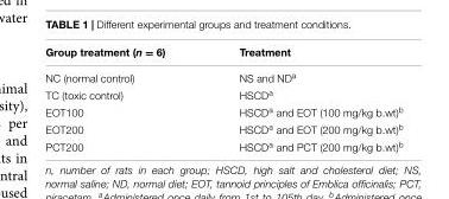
<table><thead><tr><td>Group treatment (n = 6)</td><td>Treatment</td></tr></thead><tbody><tr><td>NC (normal control)</td><td>NS and ND<sup>a</sup></td></tr><tr><td>TC (toxic control)</td><td>HSCD<sup>a</sup></td></tr><tr><td>EOT100</td><td>HSCD<sup>a</sup> and EOT (100 mg/kg b.wt)<sup>b</sup></td></tr><tr><td>EOT200</td><td>HSCD<sup>a</sup> and EOT (200 mg/kg b.wt)<sup>b</sup></td></tr><tr><td>PCT200</td><td>HSCD<sup>a</sup> and PCT (200 mg/kg b.wt)<sup>b</sup></td></tr></tbody></table>